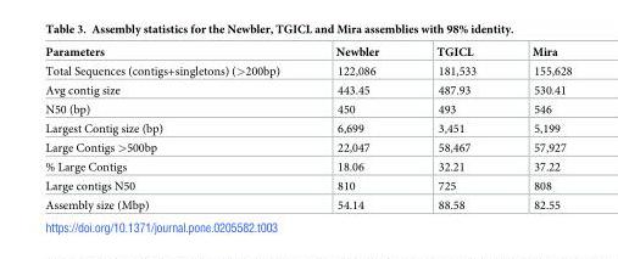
<table><thead><tr><td>Parameters</td><td>Newbler</td><td>TGICL</td><td>Mira</td></tr></thead><tbody><tr><td>Total Sequences (contigs+singletons) (&gt;200bp)</td><td>122,086</td><td>181,533</td><td>155,628</td></tr><tr><td>Avg contig size</td><td>443.45</td><td>487.93</td><td>530.41</td></tr><tr><td>N50 (bp)</td><td>450</td><td>493</td><td>546</td></tr><tr><td>Largest Contig size (bp)</td><td>6,699</td><td>3,451</td><td>5,199</td></tr><tr><td>Large Contigs &gt;500bp</td><td>22,047</td><td>58,467</td><td>57,927</td></tr><tr><td>% Large Contigs</td><td>18.06</td><td>32.21</td><td>37.22</td></tr><tr><td>Large contigs N50</td><td>810</td><td>725</td><td>808</td></tr><tr><td>Assembly size (Mbp)</td><td>54.14</td><td>88.58</td><td>82.55</td></tr></tbody></table>